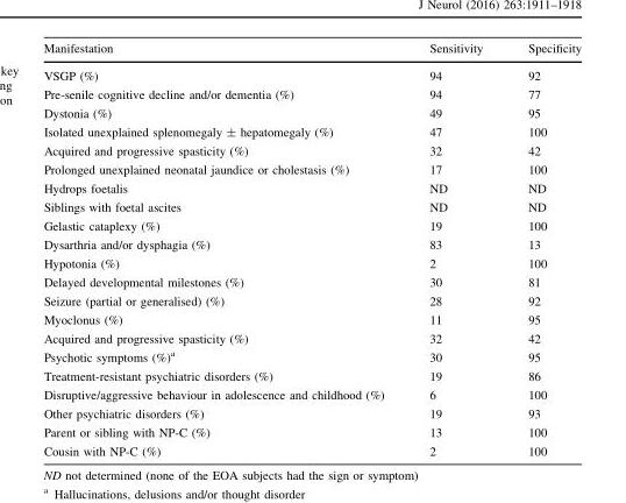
<table><thead><tr><td>Manifestation</td><td>Sensitivity</td><td>Specificity</td></tr></thead><tbody><tr><td>VSGP (%)</td><td>94</td><td>92</td></tr><tr><td>Pre-senile cognitive decline and/or dementia (%)</td><td>94</td><td>77</td></tr><tr><td>Dystonia (%)</td><td>49</td><td>95</td></tr><tr><td>Isolated unexplained splenomegaly ± hepatomegaly (%)</td><td>47</td><td>100</td></tr><tr><td>Acquired and progressive spasticity (%)</td><td>32</td><td>42</td></tr><tr><td>Prolonged unexplained neonatal jaundice or cholestasis (%)</td><td>17</td><td>100</td></tr><tr><td>Hydrops foetalis</td><td>ND</td><td>ND</td></tr><tr><td>Siblings with foetal ascites</td><td>ND</td><td>ND</td></tr><tr><td>Gelastic cataplexy (%)</td><td>19</td><td>100</td></tr><tr><td>Dysarthria and/or dysphagia (%)</td><td>83</td><td>13</td></tr><tr><td>Hypotonia (%)</td><td>2</td><td>100</td></tr><tr><td>Delayed developmental milestones (%)</td><td>30</td><td>81</td></tr><tr><td>Seizure (partial or generalised) (%)</td><td>28</td><td>92</td></tr><tr><td>Myoclonus (%)</td><td>11</td><td>95</td></tr><tr><td>Acquired and progressive spasticity (%)</td><td>32</td><td>42</td></tr><tr><td>Psychotic symptoms (%)<sup>a</sup></td><td>30</td><td>95</td></tr><tr><td>Treatment-resistant psychiatric disorders (%)</td><td>19</td><td>86</td></tr><tr><td>Disruptive/aggressive behaviour in adolescence and childhood (%)</td><td>6</td><td>100</td></tr><tr><td>Other psychiatric disorders (%)</td><td>19</td><td>93</td></tr><tr><td>Parent or sibling with NP-C (%)</td><td>13</td><td>100</td></tr><tr><td>Cousin with NP-C (%)</td><td>2</td><td>100</td></tr></tbody></table>